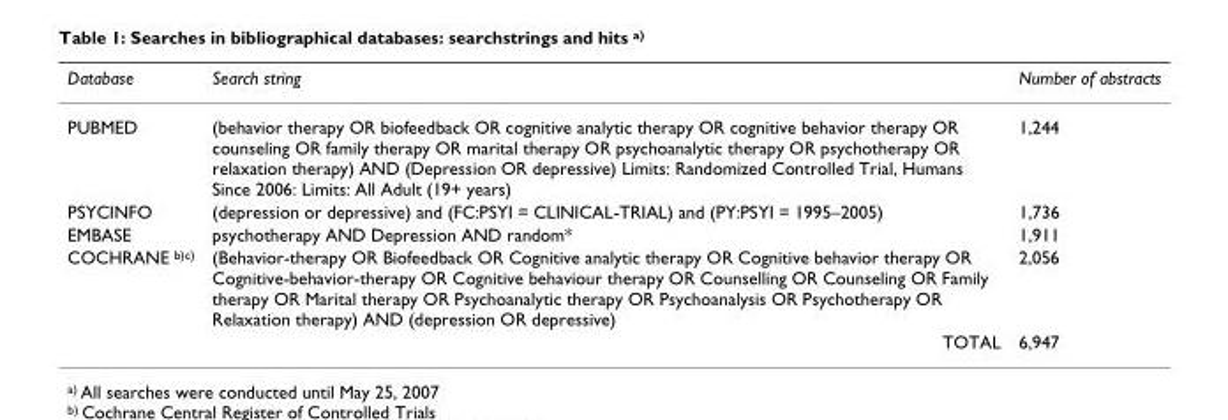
<table><thead><tr><td>Database</td><td>Search string</td><td>Number of abstracts</td></tr></thead><tbody><tr><td>PUBMED</td><td>(behavior therapy OR biofeedback OR cognitive analytic therapy OR cognitive behavior therapy OR counseling OR family therapy OR marital therapy OR psychoanalytic therapy OR psychotherapy OR relaxation therapy) AND (Depression OR depressive) Limits: Randomized Controlled Trial, Humans Since 2006: Limits: All Adult (19+ years)</td><td>1,244</td></tr><tr><td>PSYCINFO</td><td>(depression or depressive) and (FC:PSYI = CLINICAL-TRIAL) and (PY:PSYI = 1995–2005)</td><td>1,736</td></tr><tr><td>EMBASE</td><td>psychotherapy AND Depression AND random*</td><td>1,911</td></tr><tr><td rowspan="2">COCHRANE <sup>b)c)</sup></td><td>(Behavior-therapy OR Biofeedback OR Cognitive analytic therapy OR Cognitive behavior therapy OR Cognitive-behavior-therapy OR Cognitive behaviour therapy OR Counselling OR Counseling OR Family therapy OR Marital therapy OR Psychoanalytic therapy OR Psychoanalysis OR Psychotherapy OR Relaxation therapy) AND (depression OR depressive)</td><td>2,056</td></tr><tr><td>TOTAL</td><td>6,947</td></tr></tbody></table>